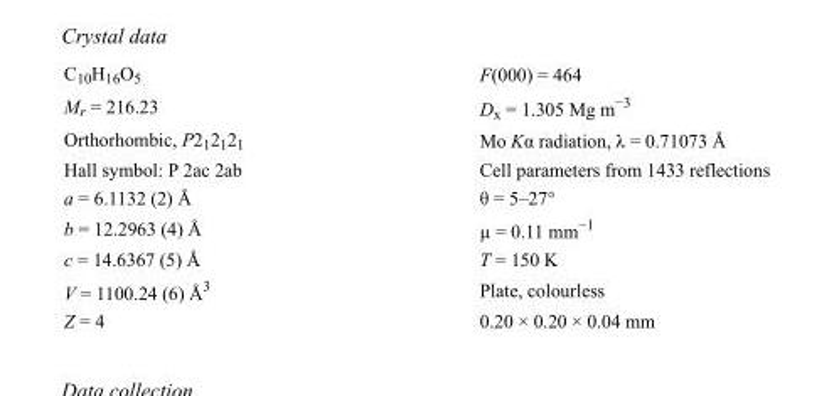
<table><tbody><tr><td>C<sub>10</sub>H<sub>16</sub>O<sub>5</sub></td><td>F(000) = 464</td></tr><tr><td>M<sub>r</sub> = 216.23</td><td>D<sub>x</sub> = 1.305 Mg m<sup>−3</sup></td></tr><tr><td>Orthorhombic, P2<sub>1</sub>2<sub>1</sub>2<sub>1</sub></td><td>Mo Kα radiation, λ = 0.71073 Å</td></tr><tr><td>Hall symbol: P 2ac 2ab</td><td>Cell parameters from 1433 reflections</td></tr><tr><td>a = 6.1132 (2) Å</td><td>θ = 5–27°</td></tr><tr><td>b = 12.2963 (4) Å</td><td>µ = 0.11 mm<sup>−1</sup></td></tr><tr><td>c = 14.6367 (5) Å</td><td>T = 150 K</td></tr><tr><td>V = 1100.24 (6) Å<sup>3</sup></td><td>Plate, colourless</td></tr><tr><td>Z = 4</td><td>0.20 × 0.20 × 0.04 mm</td></tr></tbody></table>